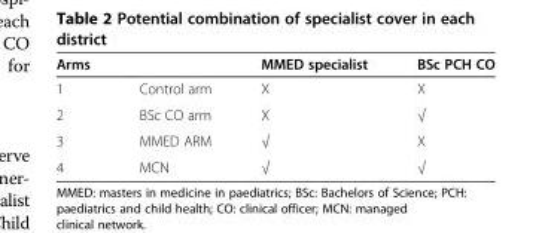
<table><thead><tr><td>Arms</td><td></td><td>MMED specialist</td><td>BSc PCH CO</td></tr></thead><tbody><tr><td>1</td><td>Control arm</td><td>X</td><td>X</td></tr><tr><td>2</td><td>BSc CO arm</td><td>X</td><td>√</td></tr><tr><td>3</td><td>MMED ARM</td><td>√</td><td>X</td></tr><tr><td>4</td><td>MCN</td><td>√</td><td>√</td></tr></tbody></table>